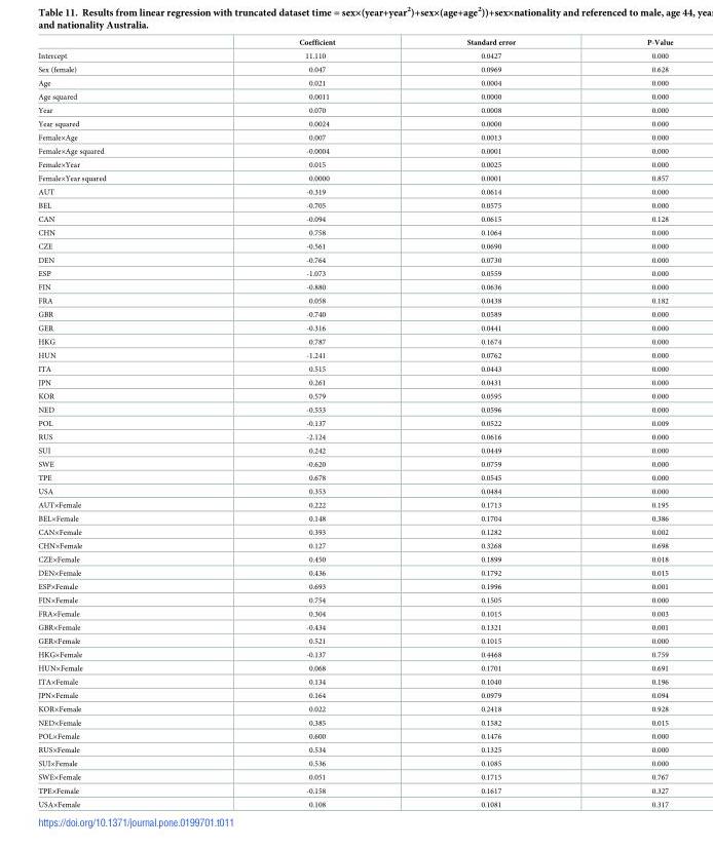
<table><thead><tr><td></td><td>Coefficient</td><td>Standard error</td><td>P-Value</td></tr></thead><tbody><tr><td>Intercept</td><td>11.110</td><td>0.0427</td><td>0.000</td></tr><tr><td>Sex (female)</td><td>0.047</td><td>0.0969</td><td>0.628</td></tr><tr><td>Age</td><td>0.021</td><td>0.0004</td><td>0.000</td></tr><tr><td>Age squared</td><td>0.0011</td><td>0.0000</td><td>0.000</td></tr><tr><td>Year</td><td>0.070</td><td>0.0008</td><td>0.000</td></tr><tr><td>Year squared</td><td>0.0024</td><td>0.0000</td><td>0.000</td></tr><tr><td>Female×Age</td><td>0.007</td><td>0.0013</td><td>0.000</td></tr><tr><td>Female×Age squared</td><td>-0.0004</td><td>0.0001</td><td>0.000</td></tr><tr><td>Female×Year</td><td>0.015</td><td>0.0025</td><td>0.000</td></tr><tr><td>Female×Year squared</td><td>0.0000</td><td>0.0001</td><td>0.857</td></tr><tr><td>AUT</td><td>-0.319</td><td>0.0614</td><td>0.000</td></tr><tr><td>BEL</td><td>-0.705</td><td>0.0575</td><td>0.000</td></tr><tr><td>CAN</td><td>-0.094</td><td>0.0615</td><td>0.128</td></tr><tr><td>CHN</td><td>0.758</td><td>0.1064</td><td>0.000</td></tr><tr><td>CZE</td><td>-0.561</td><td>0.0690</td><td>0.000</td></tr><tr><td>DEN</td><td>-0.764</td><td>0.0730</td><td>0.000</td></tr><tr><td>ESP</td><td>-1.073</td><td>0.0559</td><td>0.000</td></tr><tr><td>FIN</td><td>-0.880</td><td>0.0636</td><td>0.000</td></tr><tr><td>FRA</td><td>0.058</td><td>0.0438</td><td>0.182</td></tr><tr><td>GBR</td><td>-0.740</td><td>0.0589</td><td>0.000</td></tr><tr><td>GER</td><td>-0.316</td><td>0.0441</td><td>0.000</td></tr><tr><td>HKG</td><td>0.787</td><td>0.1674</td><td>0.000</td></tr><tr><td>HUN</td><td>-1.241</td><td>0.0762</td><td>0.000</td></tr><tr><td>ITA</td><td>0.515</td><td>0.0443</td><td>0.000</td></tr><tr><td>JPN</td><td>0.261</td><td>0.0431</td><td>0.000</td></tr><tr><td>KOR</td><td>0.579</td><td>0.0595</td><td>0.000</td></tr><tr><td>NED</td><td>-0.553</td><td>0.0596</td><td>0.000</td></tr><tr><td>POL</td><td>-0.137</td><td>0.0522</td><td>0.009</td></tr><tr><td>RUS</td><td>-2.124</td><td>0.0616</td><td>0.000</td></tr><tr><td>SUI</td><td>0.242</td><td>0.0449</td><td>0.000</td></tr><tr><td>SWE</td><td>-0.620</td><td>0.0759</td><td>0.000</td></tr><tr><td>TPE</td><td>0.678</td><td>0.0545</td><td>0.000</td></tr><tr><td>USA</td><td>0.353</td><td>0.0484</td><td>0.000</td></tr><tr><td>AUT×Female</td><td>0.222</td><td>0.1713</td><td>0.195</td></tr><tr><td>BEL×Female</td><td>0.148</td><td>0.1704</td><td>0.386</td></tr><tr><td>CAN×Female</td><td>0.393</td><td>0.1282</td><td>0.002</td></tr><tr><td>CHN×Female</td><td>0.127</td><td>0.3268</td><td>0.698</td></tr><tr><td>CZE×Female</td><td>0.450</td><td>0.1899</td><td>0.018</td></tr><tr><td>DEN×Female</td><td>0.436</td><td>0.1792</td><td>0.015</td></tr><tr><td>ESP×Female</td><td>0.693</td><td>0.1996</td><td>0.001</td></tr><tr><td>FIN×Female</td><td>0.754</td><td>0.1505</td><td>0.000</td></tr><tr><td>FRA×Female</td><td>0.304</td><td>0.1015</td><td>0.003</td></tr><tr><td>GBR×Female</td><td>-0.434</td><td>0.1321</td><td>0.001</td></tr><tr><td>GER×Female</td><td>0.521</td><td>0.1015</td><td>0.000</td></tr><tr><td>HKG×Female</td><td>-0.137</td><td>0.4468</td><td>0.759</td></tr><tr><td>HUN×Female</td><td>0.068</td><td>0.1701</td><td>0.691</td></tr><tr><td>ITA×Female</td><td>0.134</td><td>0.1040</td><td>0.196</td></tr><tr><td>JPN×Female</td><td>0.164</td><td>0.0979</td><td>0.094</td></tr><tr><td>KOR×Female</td><td>0.022</td><td>0.2418</td><td>0.928</td></tr><tr><td>NED×Female</td><td>0.385</td><td>0.1582</td><td>0.015</td></tr><tr><td>POL×Female</td><td>0.600</td><td>0.1476</td><td>0.000</td></tr><tr><td>RUS×Female</td><td>0.534</td><td>0.1325</td><td>0.000</td></tr><tr><td>SUI×Female</td><td>0.536</td><td>0.1085</td><td>0.000</td></tr><tr><td>SWE×Female</td><td>0.051</td><td>0.1715</td><td>0.767</td></tr><tr><td>TPE×Female</td><td>-0.158</td><td>0.1617</td><td>0.327</td></tr><tr><td>USA×Female</td><td>0.108</td><td>0.1081</td><td>0.317</td></tr></tbody></table>